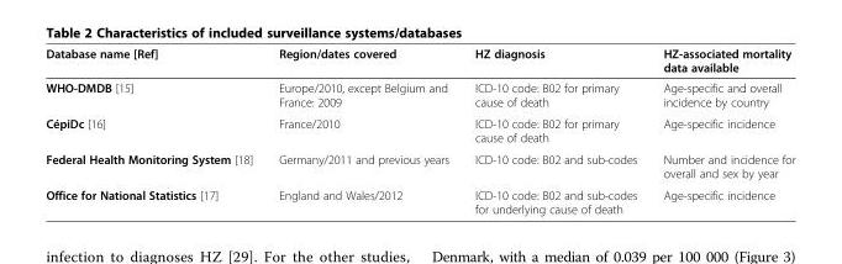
<table><thead><tr><td>Database name [Ref]</td><td>Region/dates covered</td><td>HZ diagnosis</td><td>HZ-associated mortality data available</td></tr></thead><tbody><tr><td>WHO-DMDB [15]</td><td>Europe/2010, except Belgium and France: 2009</td><td>ICD-10 code: B02 for primary cause of death</td><td>Age-specific and overall incidence by country</td></tr><tr><td>CépiDc [16]</td><td>France/2010</td><td>ICD-10 code: B02 for primary cause of death</td><td>Age-specific incidence</td></tr><tr><td>Federal Health Monitoring System [18]</td><td>Germany/2011 and previous years</td><td>ICD-10 code: B02 and sub-codes</td><td>Number and incidence for overall and sex by year</td></tr><tr><td>Office for National Statistics [17]</td><td>England and Wales/2012</td><td>ICD-10 code: B02 and sub-codes for underlying cause of death</td><td>Age-specific incidence</td></tr></tbody></table>